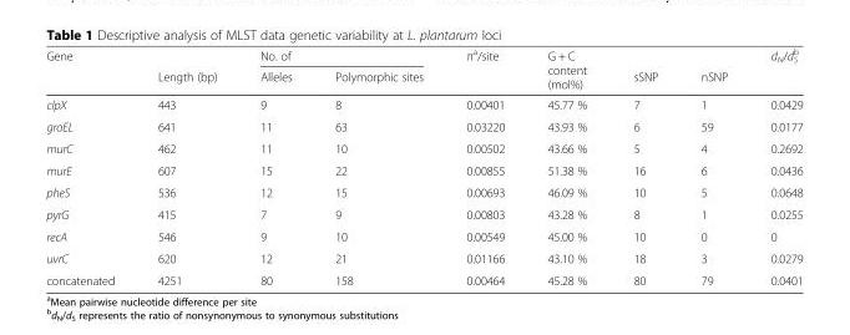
<table><thead><tr><td rowspan="2">Gene</td><td rowspan="2">Length (bp)</td><td colspan="2">No. of</td><td rowspan="2">π<sup>a</sup>/site</td><td rowspan="2">G + C content (mol%)</td><td rowspan="2">sSNP</td><td rowspan="2">nSNP</td><td rowspan="2">d<sub>N</sub>/d<sub>S</sub> <sup>b</sup></td></tr><tr><td>Alleles</td><td>Polymorphic sites</td></tr></thead><tbody><tr><td>clpX</td><td>443</td><td>9</td><td>8</td><td>0.00401</td><td>45.77 %</td><td>7</td><td>1</td><td>0.0429</td></tr><tr><td>groEL</td><td>641</td><td>11</td><td>63</td><td>0.03220</td><td>43.93 %</td><td>6</td><td>59</td><td>0.0177</td></tr><tr><td>murC</td><td>462</td><td>11</td><td>10</td><td>0.00502</td><td>43.66 %</td><td>5</td><td>4</td><td>0.2692</td></tr><tr><td>murE</td><td>607</td><td>15</td><td>22</td><td>0.00855</td><td>51.38 %</td><td>16</td><td>6</td><td>0.0436</td></tr><tr><td>pheS</td><td>536</td><td>12</td><td>15</td><td>0.00693</td><td>46.09 %</td><td>10</td><td>5</td><td>0.0648</td></tr><tr><td>pyrG</td><td>415</td><td>7</td><td>9</td><td>0.00803</td><td>43.28 %</td><td>8</td><td>1</td><td>0.0255</td></tr><tr><td>recA</td><td>546</td><td>9</td><td>10</td><td>0.00549</td><td>45.00 %</td><td>10</td><td>0</td><td>0</td></tr><tr><td>uvrC</td><td>620</td><td>12</td><td>21</td><td>0.01166</td><td>43.10 %</td><td>18</td><td>3</td><td>0.0279</td></tr><tr><td>concatenated</td><td>4251</td><td>80</td><td>158</td><td>0.00464</td><td>45.28 %</td><td>80</td><td>79</td><td>0.0401</td></tr></tbody></table>